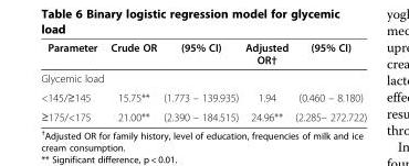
<table><thead><tr><td>Parameter</td><td>Crude OR</td><td>(95% CI)</td><td>Adjusted OR†</td><td>(95% CI)</td></tr></thead><tbody><tr><td colspan="5">Glycemic load</td></tr><tr><td>&lt;145/≥145</td><td>15.75**</td><td>(1.773 – 139.935)</td><td>1.94</td><td>(0.460 – 8.180)</td></tr><tr><td>≥175/&lt;175</td><td>21.00**</td><td>(2.390 – 184.515)</td><td>24.96**</td><td>(2.285– 272.722)</td></tr></tbody></table>